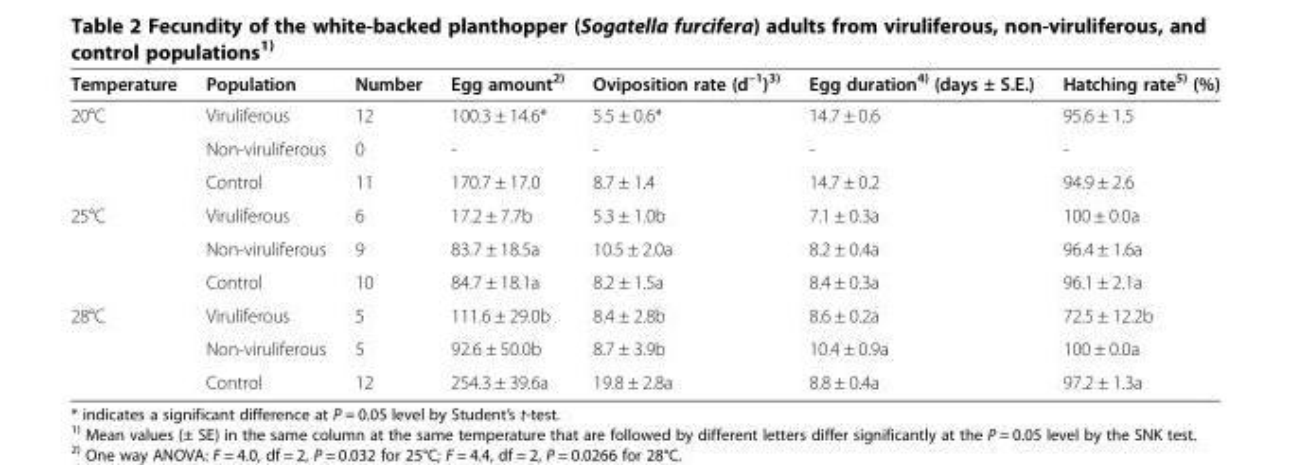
<table><thead><tr><td>Temperature</td><td>Population</td><td>Number</td><td>Egg amount<sup>2)</sup></td><td>Oviposition rate (d<sup>–1</sup>)<sup>3)</sup></td><td>Egg duration<sup>4)</sup> (days ± S.E.)</td><td>Hatching rate<sup>5)</sup> (%)</td></tr></thead><tbody><tr><td rowspan="3">20°C</td><td>Viruliferous</td><td>12</td><td>100.3 ± 14.6*</td><td>5.5 ± 0.6*</td><td>14.7 ± 0.6</td><td>95.6 ± 1.5</td></tr><tr><td>Non-viruliferous</td><td>0</td><td>-</td><td>-</td><td>-</td><td>-</td></tr><tr><td>Control</td><td>11</td><td>170.7 ± 17.0</td><td>8.7 ± 1.4</td><td>14.7 ± 0.2</td><td>94.9 ± 2.6</td></tr><tr><td rowspan="3">25°C</td><td>Viruliferous</td><td>6</td><td>17.2 ± 7.7b</td><td>5.3 ± 1.0b</td><td>7.1 ± 0.3a</td><td>100 ± 0.0a</td></tr><tr><td>Non-viruliferous</td><td>9</td><td>83.7 ± 18.5a</td><td>10.5 ± 2.0a</td><td>8.2 ± 0.4a</td><td>96.4 ± 1.6a</td></tr><tr><td>Control</td><td>10</td><td>84.7 ± 18.1a</td><td>8.2 ± 1.5a</td><td>8.4 ± 0.3a</td><td>96.1 ± 2.1a</td></tr><tr><td rowspan="3">28°C</td><td>Viruliferous</td><td>5</td><td>111.6 ± 29.0b</td><td>8.4 ± 2.8b</td><td>8.6 ± 0.2a</td><td>72.5 ± 12.2b</td></tr><tr><td>Non-viruliferous</td><td>5</td><td>92.6 ± 50.0b</td><td>8.7 ± 3.9b</td><td>10.4 ± 0.9a</td><td>100 ± 0.0a</td></tr><tr><td>Control</td><td>12</td><td>254.3 ± 39.6a</td><td>19.8 ± 2.8a</td><td>8.8 ± 0.4a</td><td>97.2 ± 1.3a</td></tr></tbody></table>